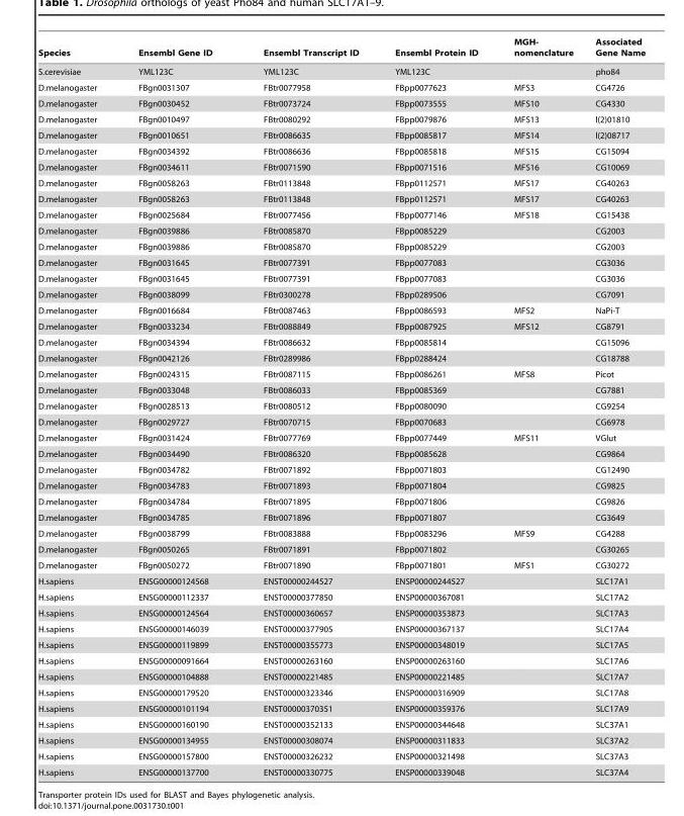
<table><thead><tr><td>Species</td><td>Ensembl Gene ID</td><td>Ensembl Transcript ID</td><td>Ensembl Protein ID</td><td>MGH- nomenclature</td><td>Associated Gene Name</td></tr></thead><tbody><tr><td>S.cerevisiae</td><td>YML123C</td><td>YML123C</td><td>YML123C</td><td></td><td>pho84</td></tr><tr><td>D.melanogaster</td><td>FBgn0031307</td><td>FBtr0077958</td><td>FBpp0077623</td><td>MFS3</td><td>CG4726</td></tr><tr><td>D.melanogaster</td><td>FBgn0030452</td><td>FBtr0073724</td><td>FBpp0073555</td><td>MFS10</td><td>CG4330</td></tr><tr><td>D.melanogaster</td><td>FBgn0010497</td><td>FBtr0080292</td><td>FBpp0079876</td><td>MFS13</td><td>l(2)01810</td></tr><tr><td>D.melanogaster</td><td>FBgn0010651</td><td>FBtr0086635</td><td>FBpp0085817</td><td>MFS14</td><td>l(2)08717</td></tr><tr><td>D.melanogaster</td><td>FBgn0034392</td><td>FBtr0086636</td><td>FBpp0085818</td><td>MFS15</td><td>CG15094</td></tr><tr><td>D.melanogaster</td><td>FBgn0034611</td><td>FBtr0071590</td><td>FBpp0071516</td><td>MFS16</td><td>CG10069</td></tr><tr><td>D.melanogaster</td><td>FBgn0058263</td><td>FBtr0113848</td><td>FBpp0112571</td><td>MFS17</td><td>CG40263</td></tr><tr><td>D.melanogaster</td><td>FBgn0058263</td><td>FBtr0113848</td><td>FBpp0112571</td><td>MFS17</td><td>CG40263</td></tr><tr><td>D.melanogaster</td><td>FBgn0025684</td><td>FBtr0077456</td><td>FBpp0077146</td><td>MFS18</td><td>CG15438</td></tr><tr><td>D.melanogaster</td><td>FBgn0039886</td><td>FBtr0085870</td><td>FBpp0085229</td><td></td><td>CG2003</td></tr><tr><td>D.melanogaster</td><td>FBgn0039886</td><td>FBtr0085870</td><td>FBpp0085229</td><td></td><td>CG2003</td></tr><tr><td>D.melanogaster</td><td>FBgn0031645</td><td>FBtr0077391</td><td>FBpp0077083</td><td></td><td>CG3036</td></tr><tr><td>D.melanogaster</td><td>FBgn0031645</td><td>FBtr0077391</td><td>FBpp0077083</td><td></td><td>CG3036</td></tr><tr><td>D.melanogaster</td><td>FBgn0038099</td><td>FBtr0300278</td><td>FBpp0289506</td><td></td><td>CG7091</td></tr><tr><td>D.melanogaster</td><td>FBgn0016684</td><td>FBtr0087463</td><td>FBpp0086593</td><td>MFS2</td><td>NaPi-T</td></tr><tr><td>D.melanogaster</td><td>FBgn0033234</td><td>FBtr0088849</td><td>FBpp0087925</td><td>MFS12</td><td>CG8791</td></tr><tr><td>D.melanogaster</td><td>FBgn0034394</td><td>FBtr0086632</td><td>FBpp0085814</td><td></td><td>CG15096</td></tr><tr><td>D.melanogaster</td><td>FBgn0042126</td><td>FBtr0289986</td><td>FBpp0288424</td><td></td><td>CG18788</td></tr><tr><td>D.melanogaster</td><td>FBgn0024315</td><td>FBtr0087115</td><td>FBpp0086261</td><td>MFS8</td><td>Picot</td></tr><tr><td>D.melanogaster</td><td>FBgn0033048</td><td>FBtr0086033</td><td>FBpp0085369</td><td></td><td>CG7881</td></tr><tr><td>D.melanogaster</td><td>FBgn0028513</td><td>FBtr0080512</td><td>FBpp0080090</td><td></td><td>CG9254</td></tr><tr><td>D.melanogaster</td><td>FBgn0029727</td><td>FBtr0070715</td><td>FBpp0070683</td><td></td><td>CG6978</td></tr><tr><td>D.melanogaster</td><td>FBgn0031424</td><td>FBtr0077769</td><td>FBpp0077449</td><td>MFS11</td><td>VGlut</td></tr><tr><td>D.melanogaster</td><td>FBgn0034490</td><td>FBtr0086320</td><td>FBpp0085628</td><td></td><td>CG9864</td></tr><tr><td>D.melanogaster</td><td>FBgn0034782</td><td>FBtr0071892</td><td>FBpp0071803</td><td></td><td>CG12490</td></tr><tr><td>D.melanogaster</td><td>FBgn0034783</td><td>FBtr0071893</td><td>FBpp0071804</td><td></td><td>CG9825</td></tr><tr><td>D.melanogaster</td><td>FBgn0034784</td><td>FBtr0071895</td><td>FBpp0071806</td><td></td><td>CG9826</td></tr><tr><td>D.melanogaster</td><td>FBgn0034785</td><td>FBtr0071896</td><td>FBpp0071807</td><td></td><td>CG3649</td></tr><tr><td>D.melanogaster</td><td>FBgn0038799</td><td>FBtr0083888</td><td>FBpp0083296</td><td>MFS9</td><td>CG4288</td></tr><tr><td>D.melanogaster</td><td>FBgn0050265</td><td>FBtr0071891</td><td>FBpp0071802</td><td></td><td>CG30265</td></tr><tr><td>D.melanogaster</td><td>FBgn0050272</td><td>FBtr0071890</td><td>FBpp0071801</td><td>MFS1</td><td>CG30272</td></tr><tr><td>H.sapiens</td><td>ENSG00000124568</td><td>ENST00000244527</td><td>ENSP00000244527</td><td></td><td>SLC17A1</td></tr><tr><td>H.sapiens</td><td>ENSG00000112337</td><td>ENST00000377850</td><td>ENSP00000367081</td><td></td><td>SLC17A2</td></tr><tr><td>H.sapiens</td><td>ENSG00000124564</td><td>ENST00000360657</td><td>ENSP00000353873</td><td></td><td>SLC17A3</td></tr><tr><td>H.sapiens</td><td>ENSG00000146039</td><td>ENST00000377905</td><td>ENSP00000367137</td><td></td><td>SLC17A4</td></tr><tr><td>H.sapiens</td><td>ENSG00000119899</td><td>ENST00000355773</td><td>ENSP00000348019</td><td></td><td>SLC17A5</td></tr><tr><td>H.sapiens</td><td>ENSG00000091664</td><td>ENST00000263160</td><td>ENSP00000263160</td><td></td><td>SLC17A6</td></tr><tr><td>H.sapiens</td><td>ENSG00000104888</td><td>ENST00000221485</td><td>ENSP00000221485</td><td></td><td>SLC17A7</td></tr><tr><td>H.sapiens</td><td>ENSG00000179520</td><td>ENST00000323346</td><td>ENSP00000316909</td><td></td><td>SLC17A8</td></tr><tr><td>H.sapiens</td><td>ENSG00000101194</td><td>ENST00000370351</td><td>ENSP00000359376</td><td></td><td>SLC17A9</td></tr><tr><td>H.sapiens</td><td>ENSG00000160190</td><td>ENST00000352133</td><td>ENSP00000344648</td><td></td><td>SLC37A1</td></tr><tr><td>H.sapiens</td><td>ENSG00000134955</td><td>ENST00000308074</td><td>ENSP00000311833</td><td></td><td>SLC37A2</td></tr><tr><td>H.sapiens</td><td>ENSG00000157800</td><td>ENST00000326232</td><td>ENSP00000321498</td><td></td><td>SLC37A3</td></tr><tr><td>H.sapiens</td><td>ENSG00000137700</td><td>ENST00000330775</td><td>ENSP00000339048</td><td></td><td>SLC37A4</td></tr></tbody></table>